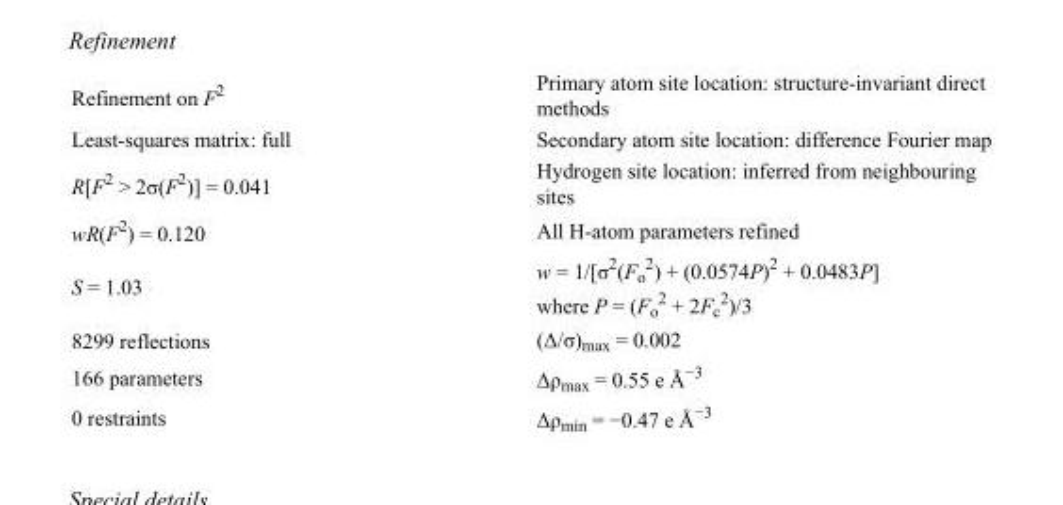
<table><tbody><tr><td>Refinement on F<sup>2</sup></td><td>Primary atom site location: structure-invariant direct methods</td></tr><tr><td>Least-squares matrix: full</td><td>Secondary atom site location: difference Fourier map</td></tr><tr><td>R[F<sup>2</sup> &gt; 2σ(F<sup>2</sup>)] = 0.041</td><td>Hydrogen site location: inferred from neighbouring sites</td></tr><tr><td>wR(F<sup>2</sup>) = 0.120</td><td>All H-atom parameters refined</td></tr><tr><td>S = 1.03</td><td>w = 1/[σ<sup>2</sup>(F<sub>o</sub> <sup>2</sup>) + (0.0574P)<sup>2</sup> + 0.0483P] where P = (F<sub>o</sub> <sup>2</sup> + 2F<sub>c</sub> <sup>2</sup>)/3</td></tr><tr><td>8299 reflections</td><td>(Δ/σ)<sub>max</sub> = 0.002</td></tr><tr><td>166 parameters</td><td>Δρ<sub>max</sub> = 0.55 e Å<sup>−3</sup></td></tr><tr><td>0 restraints</td><td>Δρ<sub>min</sub> = −0.47 e Å<sup>−3</sup></td></tr></tbody></table>